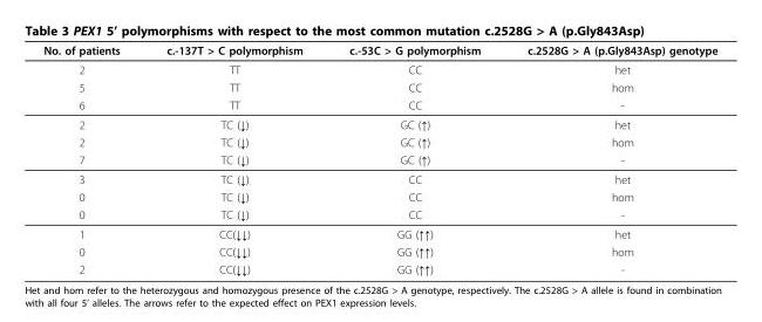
<table><thead><tr><td>No. of patients</td><td>c.-137T &gt; C polymorphism</td><td>c.-53C &gt; G polymorphism</td><td>c.2528G &gt; A (p.Gly843Asp) genotype</td></tr></thead><tbody><tr><td>2</td><td>TT</td><td>CC</td><td>het</td></tr><tr><td>5</td><td>TT</td><td>CC</td><td>hom</td></tr><tr><td>6</td><td>TT</td><td>CC</td><td>-</td></tr><tr><td>2</td><td>TC (↓)</td><td>GC (↑)</td><td>het</td></tr><tr><td>2</td><td>TC (↓)</td><td>GC (↑)</td><td>hom</td></tr><tr><td>7</td><td>TC (↓)</td><td>GC (↑)</td><td>-</td></tr><tr><td>3</td><td>TC (↓)</td><td>CC</td><td>het</td></tr><tr><td>0</td><td>TC (↓)</td><td>CC</td><td>hom</td></tr><tr><td>0</td><td>TC (↓)</td><td>CC</td><td>-</td></tr><tr><td>1</td><td>CC(↓↓)</td><td>GG (↑↑)</td><td>het</td></tr><tr><td>0</td><td>CC(↓↓)</td><td>GG (↑↑)</td><td>hom</td></tr><tr><td>2</td><td>CC(↓↓)</td><td>GG (↑↑)</td><td>-</td></tr></tbody></table>